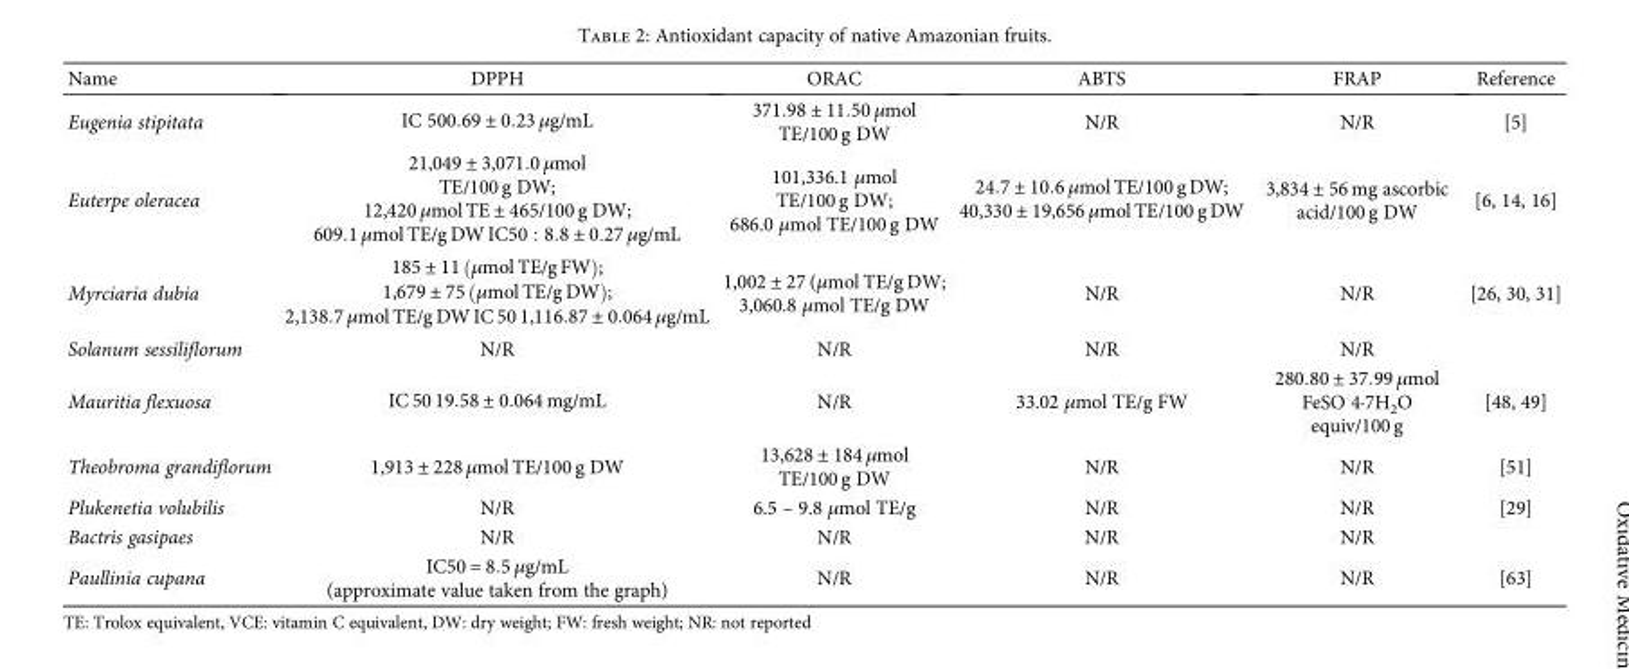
<table><thead><tr><td>Name</td><td>DPPH</td><td>ORAC</td><td>ABTS</td><td>FRAP</td><td>Reference</td></tr></thead><tbody><tr><td>Eugenia stipitata</td><td>IC 500 69 ± 0 23 μg/mL</td><td>371 98 ± 11 50 μmol TE/100 g DW</td><td>N/R</td><td>N/R</td><td>[5]</td></tr><tr><td>Euterpe oleracea</td><td>21,049 ± 3,071 0 μmol TE/100 g DW; 12,420 μmol TE ± 465/100 g DW; 609 1 μmol TE/g DW IC50 8 8 ± 0 27 μg/mL</td><td>101,336.1 μmol TE/100 g DW; 686.0 μmol TE/100 g DW</td><td>24 7 ± 10 6 μmol TE/100 g DW; 40,330 ± 19,656 μmol TE/100 g DW</td><td>3,834 ± 56 mg ascorbic acid/100 g DW</td><td>[6, 14, 16]</td></tr><tr><td>Myrciaria dubia</td><td>185 ± 11 μmol TE/g FW ; 1,679 ± 75 μmol TE/g DW ; 2,138 7 μmol TE/g DW IC 50 1,116 87 ± 0 064 μg/mL</td><td>1,002 ± 27 (μmol TE/g DW; 3,060.8 μmol TE/g DW</td><td>N/R</td><td>N/R</td><td>[26, 30, 31]</td></tr><tr><td>Solanum sessiliflorum</td><td>N/R</td><td>N/R</td><td>N/R</td><td>N/R</td><td></td></tr><tr><td>Mauritia flexuosa</td><td>IC 50 19 58 ± 0 064 mg/mL</td><td>N/R</td><td>33.02 μmol TE/g FW</td><td>280 80 ± 37 99 μmol FeSO 4·7H2O equiv/100 g</td><td>[48, 49]</td></tr><tr><td>Theobroma grandiflorum</td><td>1,913 ± 228 μmol TE/100 g DW</td><td>13,628 ± 184 μmol TE/100 g DW</td><td>N/R</td><td>N/R</td><td>[51]</td></tr><tr><td>Plukenetia volubilis</td><td>N/R</td><td>6.5 – 9.8 μmol TE/g</td><td>N/R</td><td>N/R</td><td>[29]</td></tr><tr><td>Bactris gasipaes</td><td>N/R</td><td>N/R</td><td>N/R</td><td>N/R</td><td></td></tr><tr><td>Paullinia cupana</td><td>IC50 = 8 5 μg/mL (approximate value taken from the graph)</td><td>N/R</td><td>N/R</td><td>N/R</td><td>[63]</td></tr></tbody></table>